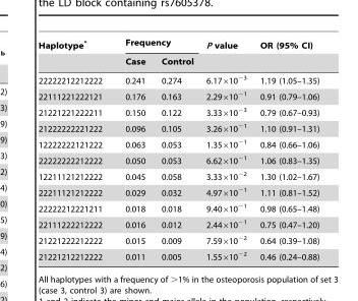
<table><thead><tr><td rowspan="2">Haplotype*</td><td colspan="2">Frequency</td><td rowspan="2">P value</td><td rowspan="2">OR (95% CI)</td></tr><tr><td>Case</td><td>Control</td></tr></thead><tbody><tr><td>22222212212222</td><td>0.241</td><td>0.274</td><td>6.17×10<sup>−3</sup></td><td>1.19 (1.05–1.35)</td></tr><tr><td>22111221222121</td><td>0.176</td><td>0.163</td><td>2.29×10<sup>−1</sup></td><td>0.91 (0.79–1.06)</td></tr><tr><td>21221221222211</td><td>0.150</td><td>0.122</td><td>3.33×10<sup>−3</sup></td><td>0.79 (0.67–0.93)</td></tr><tr><td>21222222221222</td><td>0.096</td><td>0.105</td><td>3.26×10<sup>−1</sup></td><td>1.10 (0.91–1.31)</td></tr><tr><td>12222222121222</td><td>0.063</td><td>0.053</td><td>1.35×10<sup>−1</sup></td><td>0.84 (0.66–1.06)</td></tr><tr><td>22222222212222</td><td>0.050</td><td>0.053</td><td>6.62×10<sup>−1</sup></td><td>1.06 (0.83–1.35)</td></tr><tr><td>12211121212222</td><td>0.045</td><td>0.058</td><td>3.33×10<sup>−2</sup></td><td>1.30 (1.02–1.67)</td></tr><tr><td>22211121212222</td><td>0.029</td><td>0.032</td><td>4.97×10<sup>−1</sup></td><td>1.11 (0.81–1.52)</td></tr><tr><td>22222212221211</td><td>0.018</td><td>0.018</td><td>9.40×10<sup>−1</sup></td><td>0.98 (0.65–1.48)</td></tr><tr><td>22111222212222</td><td>0.016</td><td>0.012</td><td>2.44×10<sup>−1</sup></td><td>0.75 (0.47–1.20)</td></tr><tr><td>21221222212222</td><td>0.015</td><td>0.009</td><td>7.59×10<sup>−2</sup></td><td>0.64 (0.39–1.08)</td></tr><tr><td>21221212212222</td><td>0.011</td><td>0.005</td><td>1.55×10<sup>−2</sup></td><td>0.46 (0.24–0.88)</td></tr></tbody></table>